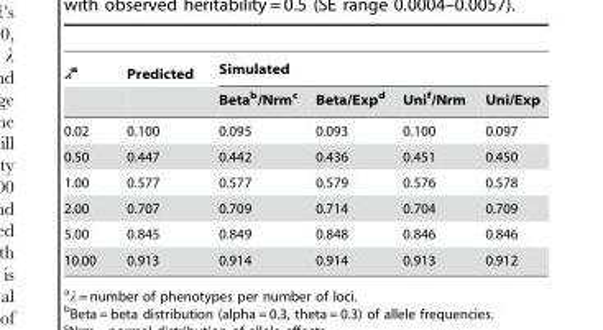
<table><thead><tr><td rowspan="2">λa</td><td rowspan="2">Predicted</td><td colspan="4">Simulated</td></tr><tr><td>Beta<sup>b</sup>/Nrm<sup>c</sup></td><td>Beta/Exp<sup>d</sup></td><td>Uni<sup>f</sup>/Nrm</td><td>Uni/Exp</td></tr></thead><tbody><tr><td>0.02</td><td>0.100</td><td>0.095</td><td>0.093</td><td>0.100</td><td>0.097</td></tr><tr><td>0.50</td><td>0.447</td><td>0.442</td><td>0.436</td><td>0.451</td><td>0.450</td></tr><tr><td>1.00</td><td>0.577</td><td>0.577</td><td>0.579</td><td>0.576</td><td>0.578</td></tr><tr><td>2.00</td><td>0.707</td><td>0.709</td><td>0.714</td><td>0.704</td><td>0.709</td></tr><tr><td>5.00</td><td>0.845</td><td>0.849</td><td>0.848</td><td>0.846</td><td>0.846</td></tr><tr><td>10.00</td><td>0.913</td><td>0.914</td><td>0.914</td><td>0.913</td><td>0.912</td></tr></tbody></table>